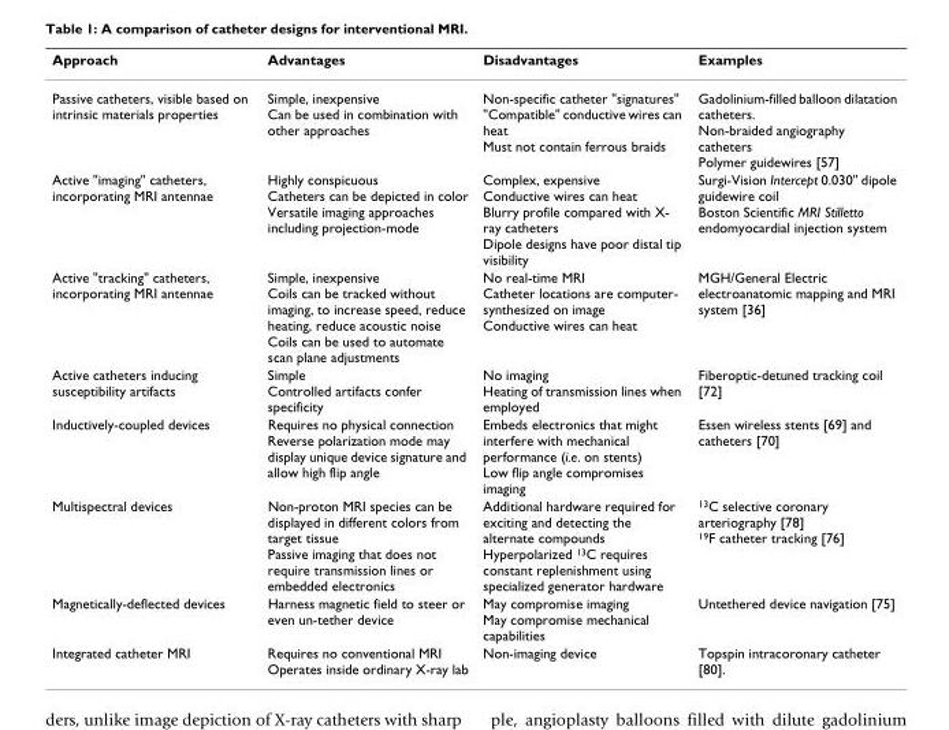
<table><thead><tr><td>Approach</td><td>Advantages</td><td>Disadvantages</td><td>Examples</td></tr></thead><tbody><tr><td>Passive catheters, visible based on intrinsic materials properties</td><td>Simple, inexpensive Can be used in combination with other approaches</td><td>Non-specific catheter &quot;signatures&quot; &quot;Compatible&quot; conductive wires can heat Must not contain ferrous braids</td><td>Gadolinium-filled balloon dilatation catheters. Non-braided angiography catheters Polymer guidewires [57]</td></tr><tr><td>Active &quot;imaging&quot; catheters, incorporating MRI antennae</td><td>Highly conspicuous Catheters can be depicted in color Versatile imaging approaches including projection-mode</td><td>Complex, expensive Conductive wires can heat Blurry profile compared with X- ray catheters Dipole designs have poor distal tip visibility</td><td>Surgi-Vision Intercept 0.030&quot; dipole guidewire coil Boston Scientific MRI Stilletto endomyocardial injection system</td></tr><tr><td>Active &quot;tracking&quot; catheters, incorporating MRI antennae</td><td>Simple, inexpensive Coils can be tracked without imaging, to increase speed, reduce heating, reduce acoustic noise Coils can be used to automate scan plane adjustments</td><td>No real-time MRI Catheter locations are computer- synthesized on image Conductive wires can heat</td><td>MGH/General Electric electroanatomic mapping and MRI system [36]</td></tr><tr><td>Active catheters inducing susceptibility artifacts</td><td>Simple Controlled artifacts confer specificity</td><td>No imaging Heating of transmission lines when employed</td><td>Fiberoptic-detuned tracking coil [72]</td></tr><tr><td>Inductively-coupled devices</td><td>Requires no physical connection Reverse polarization mode may display unique device signature and allow high flip angle</td><td>Embeds electronics that might interfere with mechanical performance (i.e. on stents) Low flip angle compromises imaging</td><td>Essen wireless stents [69] and catheters [70]</td></tr><tr><td>Multispectral devices</td><td>Non-proton MRI species can be displayed in different colors from target tissue Passive imaging that does not require transmission lines or embedded electronics</td><td>Additional hardware required for exciting and detecting the alternate compounds Hyperpolarized <sup>13</sup>C requires constant replenishment using specialized generator hardware</td><td><sup>13</sup>C selective coronary arteriography [78] <sup>19</sup>F catheter tracking [76]</td></tr><tr><td>Magnetically-deflected devices</td><td>Harness magnetic field to steer or even un-tether device</td><td>May compromise imaging May compromise mechanical capabilities</td><td>Untethered device navigation [75]</td></tr><tr><td>Integrated catheter MRI</td><td>Requires no conventional MRI Operates inside ordinary X-ray lab</td><td>Non-imaging device</td><td>Topspin intracoronary catheter [80].</td></tr></tbody></table>